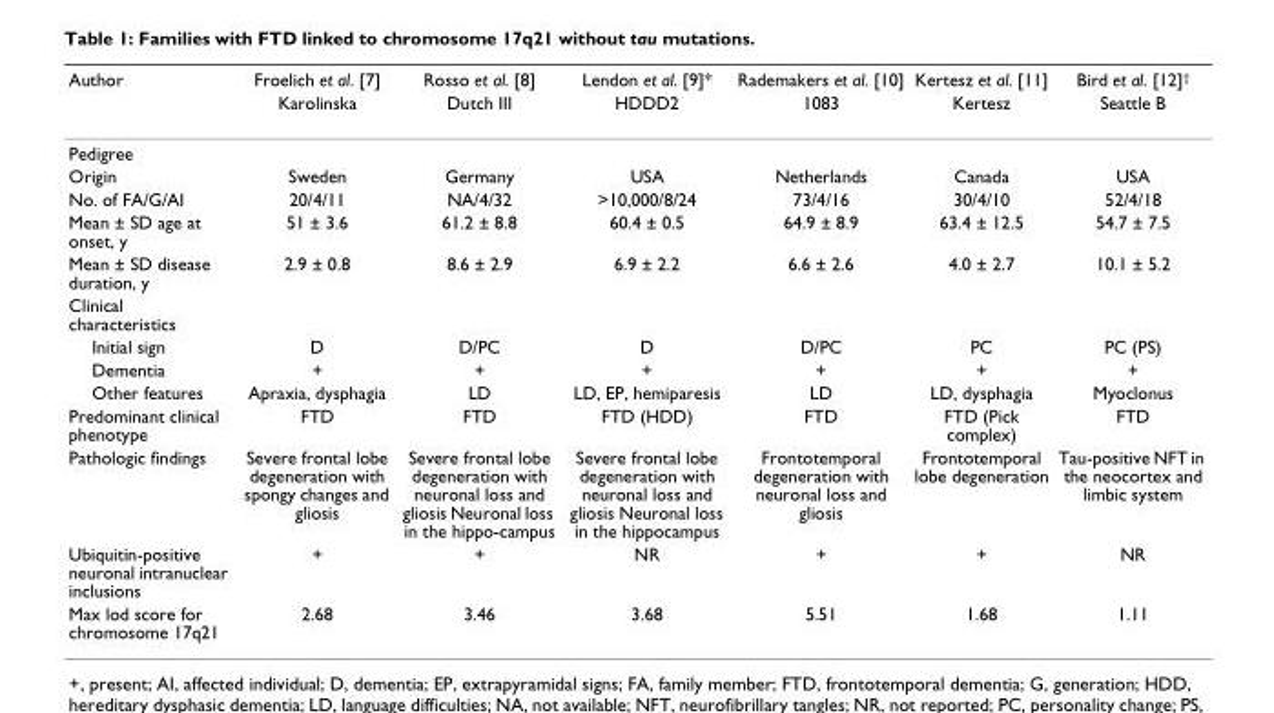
<table><thead><tr><td rowspan="2">Author</td><td rowspan="2">Froelich et al. [7] Karolinska</td><td rowspan="2">Rosso et al. [8] Dutch III</td><td rowspan="2">Lendon et al. [9]* HDDD2</td><td rowspan="2">Rademakers et al. [10] 1083</td><td rowspan="2">Kertesz et al. [11] Kertesz</td><td rowspan="2">Bird et al. [12]<sup>†</sup> Seattle B</td></tr><tr></tr></thead><tbody><tr><td colspan="7">Pedigree</td></tr><tr><td>Origin</td><td>Sweden</td><td>Germany</td><td>USA</td><td>Netherlands</td><td>Canada</td><td>USA</td></tr><tr><td>No. of FA/G/AI</td><td>20/4/11</td><td>NA/4/32</td><td>&gt;10,000/8/24</td><td>73/4/16</td><td>30/4/10</td><td>52/4/18</td></tr><tr><td>Mean ± SD age at onset, y</td><td>51 ± 3.6</td><td>61.2 ± 8.8</td><td>60.4 ± 0.5</td><td>64.9 ± 8.9</td><td>63.4 ± 12.5</td><td>54.7 ± 7.5</td></tr><tr><td>Mean ± SD disease duration, y</td><td>2.9 ± 0.8</td><td>8.6 ± 2.9</td><td>6.9 ± 2.2</td><td>6.6 ± 2.6</td><td>4.0 ± 2.7</td><td>10.1 ± 5.2</td></tr><tr><td colspan="7">Clinical characteristics</td></tr><tr><td>Initial sign</td><td>D</td><td>D/PC</td><td>D</td><td>D/PC</td><td>PC</td><td>PC (PS)</td></tr><tr><td>Dementia</td><td>+</td><td>+</td><td>+</td><td>+</td><td>+</td><td>+</td></tr><tr><td>Other features</td><td>Apraxia, dysphagia</td><td>LD</td><td>LD, EP, hemiparesis</td><td>LD</td><td>LD, dysphagia</td><td>Myoclonus</td></tr><tr><td>Predominant clinical phenotype</td><td>FTD</td><td>FTD</td><td>FTD (HDD)</td><td>FTD</td><td>FTD (Pick complex)</td><td>FTD</td></tr><tr><td>Pathologic findings</td><td>Severe frontal lobe degeneration with spongy changes and gliosis</td><td>Severe frontal lobe degeneration with neuronal loss and gliosis Neuronal loss in the hippo-campus</td><td>Severe frontal lobe degeneration with neuronal loss and gliosis Neuronal loss in the hippocampus</td><td>Frontotemporal degeneration with neuronal loss and gliosis</td><td>Frontotemporal lobe degeneration</td><td>Tau-positive NFT in the neocortex and limbic system</td></tr><tr><td>Ubiquitin-positive neuronal intranuclear inclusions</td><td>+</td><td>+</td><td>NR</td><td>+</td><td>+</td><td>NR</td></tr><tr><td>Max lod score for chromosome 17q21</td><td>2.68</td><td>3.46</td><td>3.68</td><td>5.51</td><td>1.68</td><td>1.11</td></tr></tbody></table>